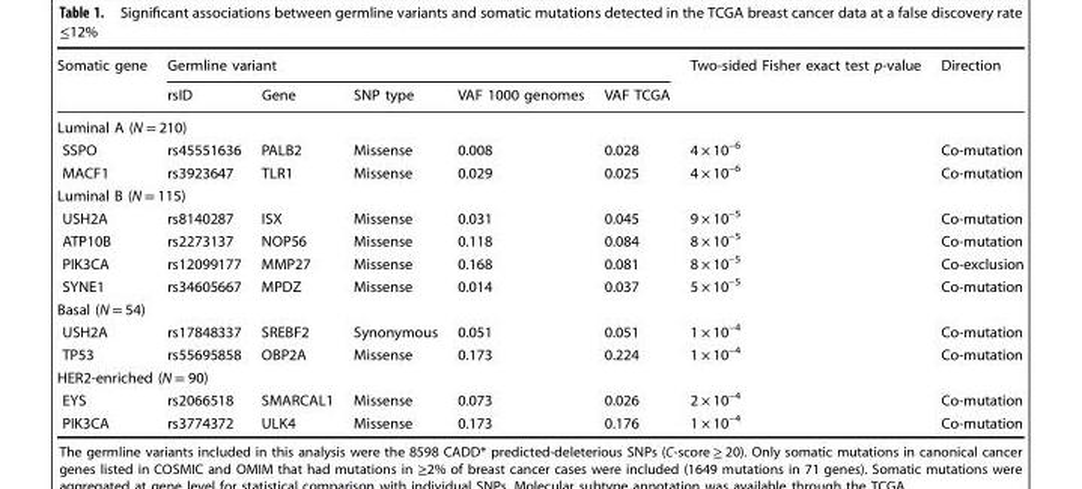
<table><thead><tr><td rowspan="2">Somatic gene</td><td colspan="5">Germline variant</td><td rowspan="2">Two-sided Fisher exact test p-value</td><td rowspan="2">Direction</td></tr><tr><td>rsID</td><td>Gene</td><td>SNP type</td><td>VAF 1000 genomes</td><td>VAF TCGA</td></tr></thead><tbody><tr><td colspan="8">Luminal A (N = 210)</td></tr><tr><td>SSPO</td><td>rs45551636</td><td>PALB2</td><td>Missense</td><td>0.008</td><td>0.028</td><td>4 × 10<sup>–6</sup></td><td>Co-mutation</td></tr><tr><td>MACF1</td><td>rs3923647</td><td>TLR1</td><td>Missense</td><td>0.029</td><td>0.025</td><td>4 × 10<sup>–6</sup></td><td>Co-mutation</td></tr><tr><td colspan="8">Luminal B (N = 115)</td></tr><tr><td>USH2A</td><td>rs8140287</td><td>ISX</td><td>Missense</td><td>0.031</td><td>0.045</td><td>9 × 10<sup>–5</sup></td><td>Co-mutation</td></tr><tr><td>ATP10B</td><td>rs2273137</td><td>NOP56</td><td>Missense</td><td>0.118</td><td>0.084</td><td>8 × 10<sup>–5</sup></td><td>Co-mutation</td></tr><tr><td>PIK3CA</td><td>rs12099177</td><td>MMP27</td><td>Missense</td><td>0.168</td><td>0.081</td><td>8 × 10<sup>–5</sup></td><td>Co-exclusion</td></tr><tr><td>SYNE1</td><td>rs34605667</td><td>MPDZ</td><td>Missense</td><td>0.014</td><td>0.037</td><td>5 × 10<sup>–5</sup></td><td>Co-mutation</td></tr><tr><td colspan="8">Basal (N = 54)</td></tr><tr><td>USH2A</td><td>rs17848337</td><td>SREBF2</td><td>Synonymous</td><td>0.051</td><td>0.051</td><td>1 × 10<sup>–4</sup></td><td>Co-mutation</td></tr><tr><td>TP53</td><td>rs55695858</td><td>OBP2A</td><td>Missense</td><td>0.173</td><td>0.224</td><td>1 × 10<sup>–4</sup></td><td>Co-mutation</td></tr><tr><td colspan="8">HER2-enriched (N = 90)</td></tr><tr><td>EYS</td><td>rs2066518</td><td>SMARCAL1</td><td>Missense</td><td>0.073</td><td>0.026</td><td>2 × 10<sup>–4</sup></td><td>Co-mutation</td></tr><tr><td>PIK3CA</td><td>rs3774372</td><td>ULK4</td><td>Missense</td><td>0.173</td><td>0.176</td><td>1 × 10<sup>–4</sup></td><td>Co-mutation</td></tr></tbody></table>